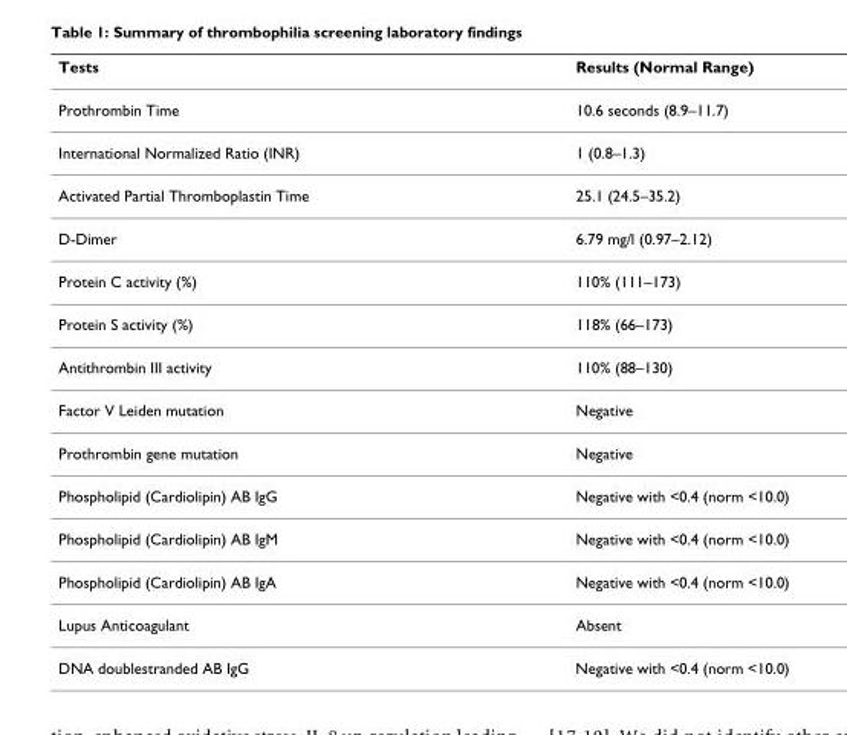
<table><thead><tr><td>Tests</td><td>Results (Normal Range)</td></tr></thead><tbody><tr><td>Prothrombin Time</td><td>10.6 seconds (8.9–11.7)</td></tr><tr><td>International Normalized Ratio (INR)</td><td>1 (0.8–1.3)</td></tr><tr><td>Activated Partial Thromboplastin Time</td><td>25.1 (24.5–35.2)</td></tr><tr><td>D-Dimer</td><td>6.79 mg/l (0.97–2.12)</td></tr><tr><td>Protein C activity (%)</td><td>110% (111–173)</td></tr><tr><td>Protein S activity (%)</td><td>118% (66–173)</td></tr><tr><td>Antithrombin III activity</td><td>110% (88–130)</td></tr><tr><td>Factor V Leiden mutation</td><td>Negative</td></tr><tr><td>Prothrombin gene mutation</td><td>Negative</td></tr><tr><td>Phospholipid (Cardiolipin) AB IgG</td><td>Negative with &lt;0.4 (norm &lt;10.0)</td></tr><tr><td>Phospholipid (Cardiolipin) AB IgM</td><td>Negative with &lt;0.4 (norm &lt;10.0)</td></tr><tr><td>Phospholipid (Cardiolipin) AB IgA</td><td>Negative with &lt;0.4 (norm &lt;10.0)</td></tr><tr><td>Lupus Anticoagulant</td><td>Absent</td></tr><tr><td>DNA doublestranded AB IgG</td><td>Negative with &lt;0.4 (norm &lt;10.0)</td></tr></tbody></table>